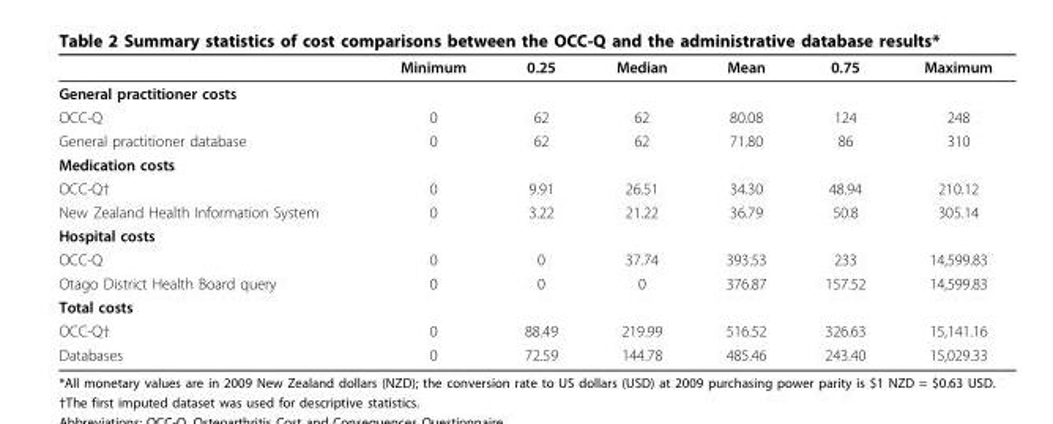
<table><thead><tr><td></td><td>Minimum</td><td>0.25</td><td>Median</td><td>Mean</td><td>0.75</td><td>Maximum</td></tr></thead><tbody><tr><td colspan="7">General practitioner costs</td></tr><tr><td>OCC-Q</td><td>0</td><td>62</td><td>62</td><td>80.08</td><td>124</td><td>248</td></tr><tr><td>General practitioner database</td><td>0</td><td>62</td><td>62</td><td>71.80</td><td>86</td><td>310</td></tr><tr><td colspan="7">Medication costs</td></tr><tr><td>OCC-Q†</td><td>0</td><td>9.91</td><td>26.51</td><td>34.30</td><td>48.94</td><td>210.12</td></tr><tr><td>New Zealand Health Information System</td><td>0</td><td>3.22</td><td>21.22</td><td>36.79</td><td>50.8</td><td>305.14</td></tr><tr><td colspan="7">Hospital costs</td></tr><tr><td>OCC-Q</td><td>0</td><td>0</td><td>37.74</td><td>393.53</td><td>233</td><td>14,599.83</td></tr><tr><td>Otago District Health Board query</td><td>0</td><td>0</td><td>0</td><td>376.87</td><td>157.52</td><td>14,599.83</td></tr><tr><td colspan="7">Total costs</td></tr><tr><td>OCC-Q†</td><td>0</td><td>88.49</td><td>219.99</td><td>516.52</td><td>326.63</td><td>15,141.16</td></tr><tr><td>Databases</td><td>0</td><td>72.59</td><td>144.78</td><td>485.46</td><td>243.40</td><td>15,029.33</td></tr></tbody></table>